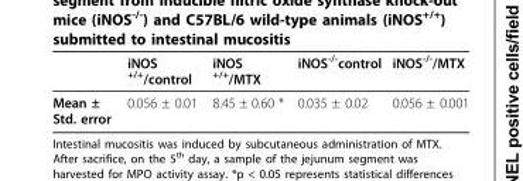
<table><thead><tr><td></td><td>iNOS <sup>+/+</sup>/control</td><td>iNOS <sup>+/+</sup>/MTX</td><td>iNOS<sup>-/-</sup>control</td><td>iNOS<sup>-/-</sup>/MTX</td></tr></thead><tbody><tr><td>Mean ± Std. error</td><td>0.056 ± 0.01</td><td>8.45 ± 0.60 *</td><td>0.035 ± 0.02</td><td>0.056 ± 0.001</td></tr></tbody></table>